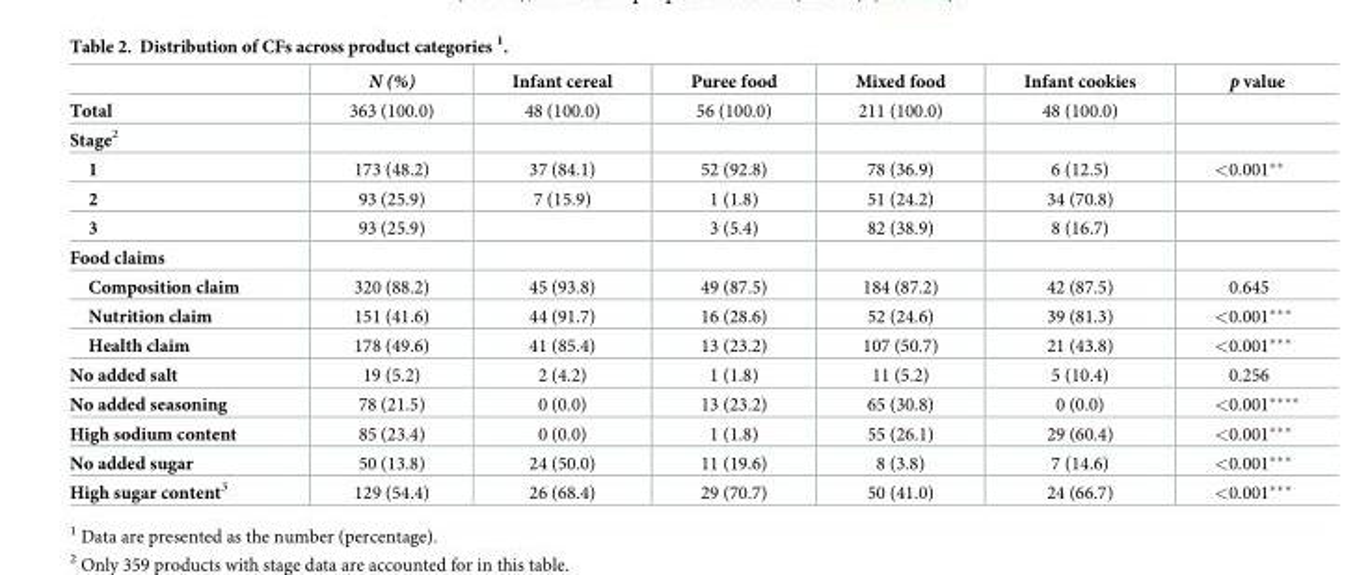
<table><thead><tr><td></td><td>N (%)</td><td>Infant cereal</td><td>Puree food</td><td>Mixed food</td><td>Infant cookies</td><td>p value</td></tr></thead><tbody><tr><td>Total</td><td>363 (100.0)</td><td>48 (100.0)</td><td>56 (100.0)</td><td>211 (100.0)</td><td>48 (100.0)</td><td></td></tr><tr><td colspan="7">Stage<sup>2</sup></td></tr><tr><td>1</td><td>173 (48.2)</td><td>37 (84.1)</td><td>52 (92.8)</td><td>78 (36.9)</td><td>6 (12.5)</td><td>&lt;0.001**</td></tr><tr><td>2</td><td>93 (25.9)</td><td>7 (15.9)</td><td>1 (1.8)</td><td>51 (24.2)</td><td>34 (70.8)</td><td></td></tr><tr><td>3</td><td>93 (25.9)</td><td></td><td>3 (5.4)</td><td>82 (38.9)</td><td>8 (16.7)</td><td></td></tr><tr><td colspan="7">Food claims</td></tr><tr><td>Composition claim</td><td>320 (88.2)</td><td>45 (93.8)</td><td>49 (87.5)</td><td>184 (87.2)</td><td>42 (87.5)</td><td>0.645</td></tr><tr><td>Nutrition claim</td><td>151 (41.6)</td><td>44 (91.7)</td><td>16 (28.6)</td><td>52 (24.6)</td><td>39 (81.3)</td><td>&lt;0.001***</td></tr><tr><td>Health claim</td><td>178 (49.6)</td><td>41 (85.4)</td><td>13 (23.2)</td><td>107 (50.7)</td><td>21 (43.8)</td><td>&lt;0.001***</td></tr><tr><td>No added salt</td><td>19 (5.2)</td><td>2 (4.2)</td><td>1 (1.8)</td><td>11 (5.2)</td><td>5 (10.4)</td><td>0.256</td></tr><tr><td>No added seasoning</td><td>78 (21.5)</td><td>0 (0.0)</td><td>13 (23.2)</td><td>65 (30.8)</td><td>0 (0.0)</td><td>&lt;0.001****</td></tr><tr><td>High sodium content</td><td>85 (23.4)</td><td>0 (0.0)</td><td>1 (1.8)</td><td>55 (26.1)</td><td>29 (60.4)</td><td>&lt;0.001***</td></tr><tr><td>No added sugar</td><td>50 (13.8)</td><td>24 (50.0)</td><td>11 (19.6)</td><td>8 (3.8)</td><td>7 (14.6)</td><td>&lt;0.001***</td></tr><tr><td>High sugar content<sup>3</sup></td><td>129 (54.4)</td><td>26 (68.4)</td><td>29 (70.7)</td><td>50 (41.0)</td><td>24 (66.7)</td><td>&lt;0.001***</td></tr></tbody></table>